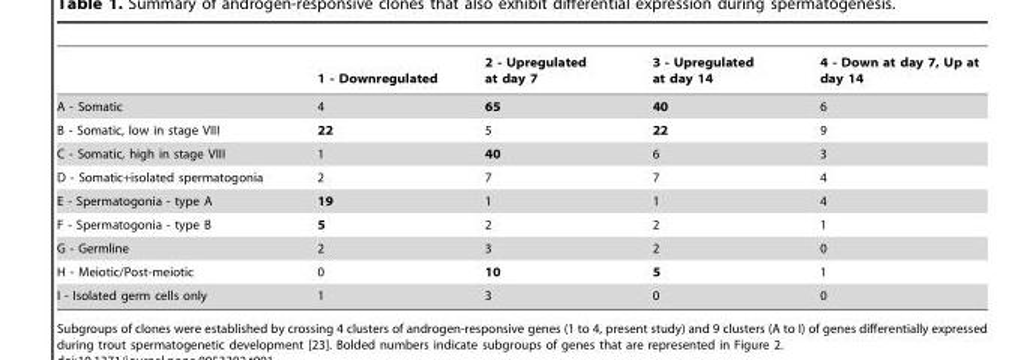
<table><thead><tr><td></td><td>1 - Downregulated</td><td>2 - Upregulated at day 7</td><td>3 - Upregulated at day 14</td><td>4 - Down at day 7, Up at day 14</td></tr></thead><tbody><tr><td>A - Somatic</td><td>4</td><td>65</td><td>40</td><td>6</td></tr><tr><td>B - Somatic, low in stage VIII</td><td>22</td><td>5</td><td>22</td><td>9</td></tr><tr><td>C - Somatic, high in stage VIII</td><td>1</td><td>40</td><td>6</td><td>3</td></tr><tr><td>D - Somatic+isolated spermatogonia</td><td>2</td><td>7</td><td>7</td><td>4</td></tr><tr><td>E - Spermatogonia - type A</td><td>19</td><td>1</td><td>1</td><td>4</td></tr><tr><td>F - Spermatogonia - type B</td><td>5</td><td>2</td><td>2</td><td>1</td></tr><tr><td>G - Germline</td><td>2</td><td>3</td><td>2</td><td>0</td></tr><tr><td>H - Meiotic/Post-meiotic</td><td>0</td><td>10</td><td>5</td><td>1</td></tr><tr><td>I - Isolated germ cells only</td><td>1</td><td>3</td><td>0</td><td>0</td></tr></tbody></table>